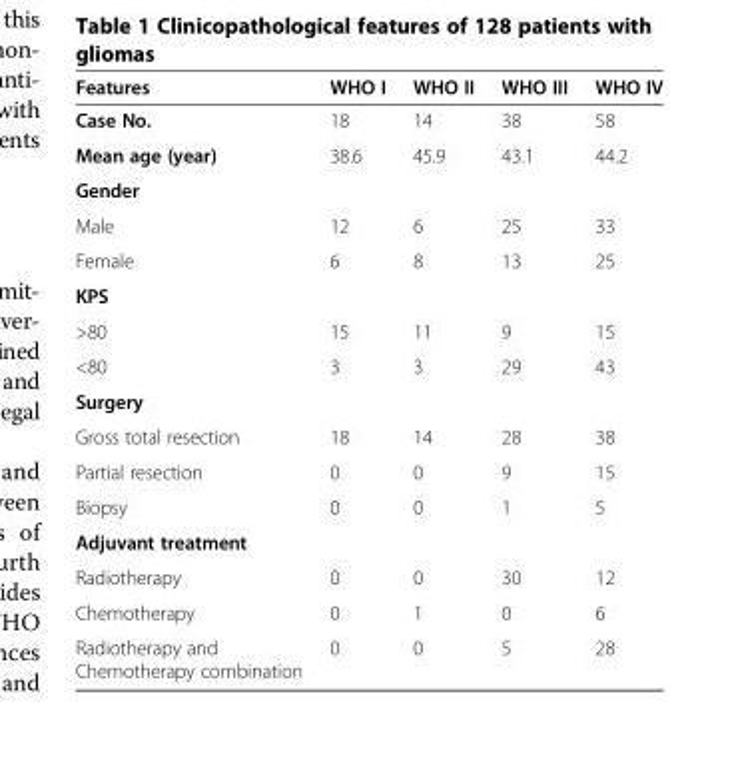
<table><thead><tr><td>Features</td><td>WHO I</td><td>WHO II</td><td>WHO III</td><td>WHO IV</td></tr></thead><tbody><tr><td>Case No.</td><td>18</td><td>14</td><td>38</td><td>58</td></tr><tr><td>Mean age (year)</td><td>38.6</td><td>45.9</td><td>43.1</td><td>44.2</td></tr><tr><td colspan="5">Gender</td></tr><tr><td>Male</td><td>12</td><td>6</td><td>25</td><td>33</td></tr><tr><td>Female</td><td>6</td><td>8</td><td>13</td><td>25</td></tr><tr><td colspan="5">KPS</td></tr><tr><td>&gt;80</td><td>15</td><td>11</td><td>9</td><td>15</td></tr><tr><td>&lt;80</td><td>3</td><td>3</td><td>29</td><td>43</td></tr><tr><td colspan="5">Surgery</td></tr><tr><td>Gross total resection</td><td>18</td><td>14</td><td>28</td><td>38</td></tr><tr><td>Partial resection</td><td>0</td><td>0</td><td>9</td><td>15</td></tr><tr><td>Biopsy</td><td>0</td><td>0</td><td>1</td><td>5</td></tr><tr><td colspan="5">Adjuvant treatment</td></tr><tr><td>Radiotherapy</td><td>0</td><td>0</td><td>30</td><td>12</td></tr><tr><td>Chemotherapy</td><td>0</td><td>1</td><td>0</td><td>6</td></tr><tr><td>Radiotherapy and Chemotherapy combination</td><td>0</td><td>0</td><td>5</td><td>28</td></tr></tbody></table>